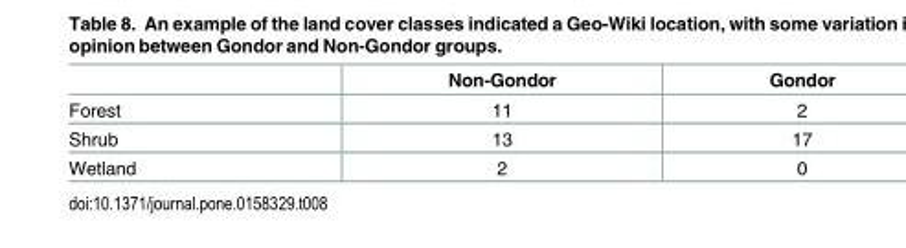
<table><thead><tr><td></td><td>Non-Gondor</td><td>Gondor</td></tr></thead><tbody><tr><td>Forest</td><td>11</td><td>2</td></tr><tr><td>Shrub</td><td>13</td><td>17</td></tr><tr><td>Wetland</td><td>2</td><td>0</td></tr></tbody></table>